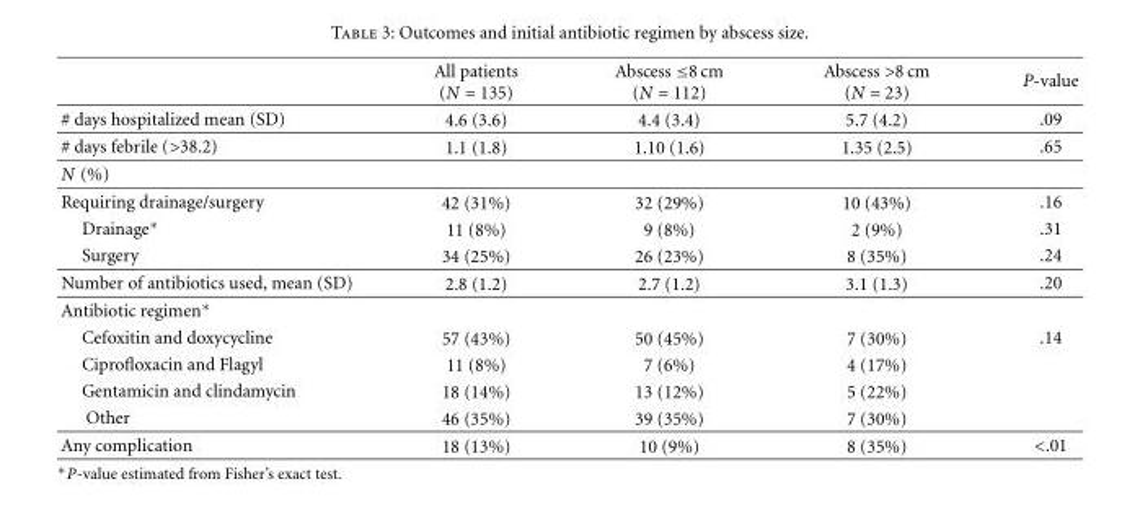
<table><thead><tr><td></td><td>All patients (N = 135)</td><td>Abscess ≤8 cm (N = 112)</td><td>Abscess &gt;8 cm (N = 23)</td><td>P-value</td></tr></thead><tbody><tr><td># days hospitalized mean (SD)</td><td>4.6 (3.6)</td><td>4.4 (3.4)</td><td>5.7 (4.2)</td><td>.09</td></tr><tr><td># days febrile (&gt;38.2)</td><td>1.1 (1.8)</td><td>1.10 (1.6)</td><td>1.35 (2.5)</td><td>.65</td></tr><tr><td colspan="5">N (%)</td></tr><tr><td>Requiring drainage/surgery</td><td>42 (31%)</td><td>32 (29%)</td><td>10 (43%)</td><td>.16</td></tr><tr><td>Drainage∗</td><td>11 (8%)</td><td>9 (8%)</td><td>2 (9%)</td><td>.31</td></tr><tr><td>Surgery</td><td>34 (25%)</td><td>26 (23%)</td><td>8 (35%)</td><td>.24</td></tr><tr><td>Number of antibiotics used, mean (SD)</td><td>2.8 (1.2)</td><td>2.7 (1.2)</td><td>3.1 (1.3)</td><td>.20</td></tr><tr><td colspan="5">Antibiotic regimen∗</td></tr><tr><td>Cefoxitin and doxycycline</td><td>57 (43%)</td><td>50 (45%)</td><td>7 (30%)</td><td>.14</td></tr><tr><td>Ciprofloxacin and Flagyl</td><td>11 (8%)</td><td>7 (6%)</td><td>4 (17%)</td><td></td></tr><tr><td>Gentamicin and clindamycin</td><td>18 (14%)</td><td>13 (12%)</td><td>5 (22%)</td><td></td></tr><tr><td>Other</td><td>46 (35%)</td><td>39 (35%)</td><td>7 (30%)</td><td></td></tr><tr><td>Any complication</td><td>18 (13%)</td><td>10 (9%)</td><td>8 (35%)</td><td>&lt;.01</td></tr></tbody></table>